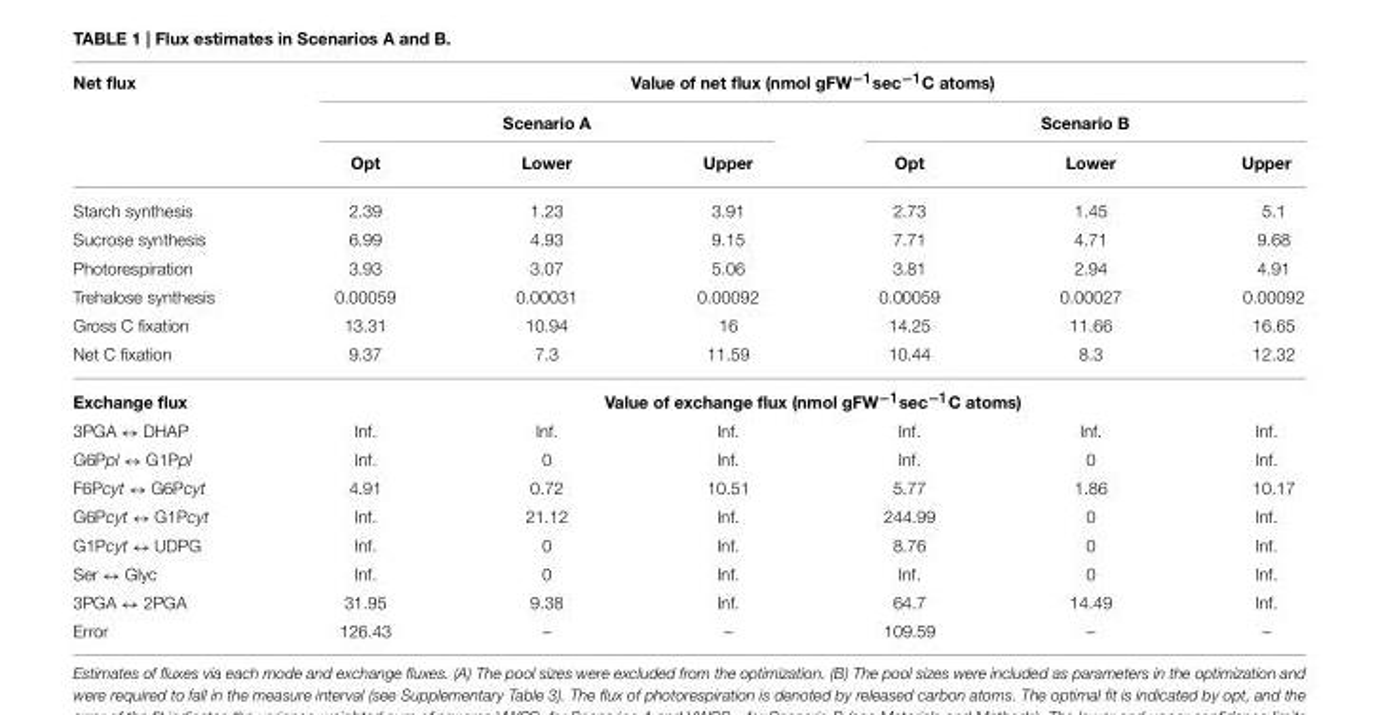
<table><thead><tr><td rowspan="3">Net flux</td><td colspan="6">Value of net flux (nmol gFW<sup>−1</sup>sec<sup>−1</sup>C atoms)</td></tr><tr><td colspan="3">Scenario A</td><td colspan="3">Scenario B</td></tr><tr><td>Opt</td><td>Lower</td><td>Upper</td><td>Opt</td><td>Lower</td><td>Upper</td></tr></thead><tbody><tr><td>Starch synthesis</td><td>2.39</td><td>1.23</td><td>3.91</td><td>2.73</td><td>1.45</td><td>5.1</td></tr><tr><td>Sucrose synthesis</td><td>6.99</td><td>4.93</td><td>9.15</td><td>7.71</td><td>4.71</td><td>9.68</td></tr><tr><td>Photorespiration</td><td>3.93</td><td>3.07</td><td>5.06</td><td>3.81</td><td>2.94</td><td>4.91</td></tr><tr><td>Trehalose synthesis</td><td>0.00059</td><td>0.00031</td><td>0.00092</td><td>0.00059</td><td>0.00027</td><td>0.00092</td></tr><tr><td>Gross C fixation</td><td>13.31</td><td>10.94</td><td>16</td><td>14.25</td><td>11.66</td><td>16.65</td></tr><tr><td>Net C fixation</td><td>9.37</td><td>7.3</td><td>11.59</td><td>10.44</td><td>8.3</td><td>12.32</td></tr><tr><td>Exchange flux</td><td colspan="6">Value of exchange flux (nmol gFW<sup>−1</sup>sec<sup>−1</sup>C atoms)</td></tr><tr><td>3PGA ↔ DHAP</td><td>Inf.</td><td>Inf.</td><td>Inf.</td><td>Inf.</td><td>Inf.</td><td>Inf.</td></tr><tr><td>G6Ppl ↔ G1Ppl</td><td>Inf.</td><td>0</td><td>Inf.</td><td>Inf.</td><td>0</td><td>Inf.</td></tr><tr><td>F6Pcyt ↔ G6Pcyt</td><td>4.91</td><td>0.72</td><td>10.51</td><td>5.77</td><td>1.86</td><td>10.17</td></tr><tr><td>G6Pcyt ↔ G1Pcyt</td><td>Inf.</td><td>21.12</td><td>Inf.</td><td>244.99</td><td>0</td><td>Inf.</td></tr><tr><td>G1Pcyt ↔ UDPG</td><td>Inf.</td><td>0</td><td>Inf.</td><td>8.76</td><td>0</td><td>Inf.</td></tr><tr><td>Ser ↔ Glyc</td><td>Inf.</td><td>0</td><td>Inf.</td><td>Inf.</td><td>0</td><td>Inf.</td></tr><tr><td>3PGA ↔ 2PGA</td><td>31.95</td><td>9.38</td><td>Inf.</td><td>64.7</td><td>14.49</td><td>Inf.</td></tr><tr><td>Error</td><td>126.43</td><td>–</td><td>–</td><td>109.59</td><td>–</td><td>–</td></tr></tbody></table>